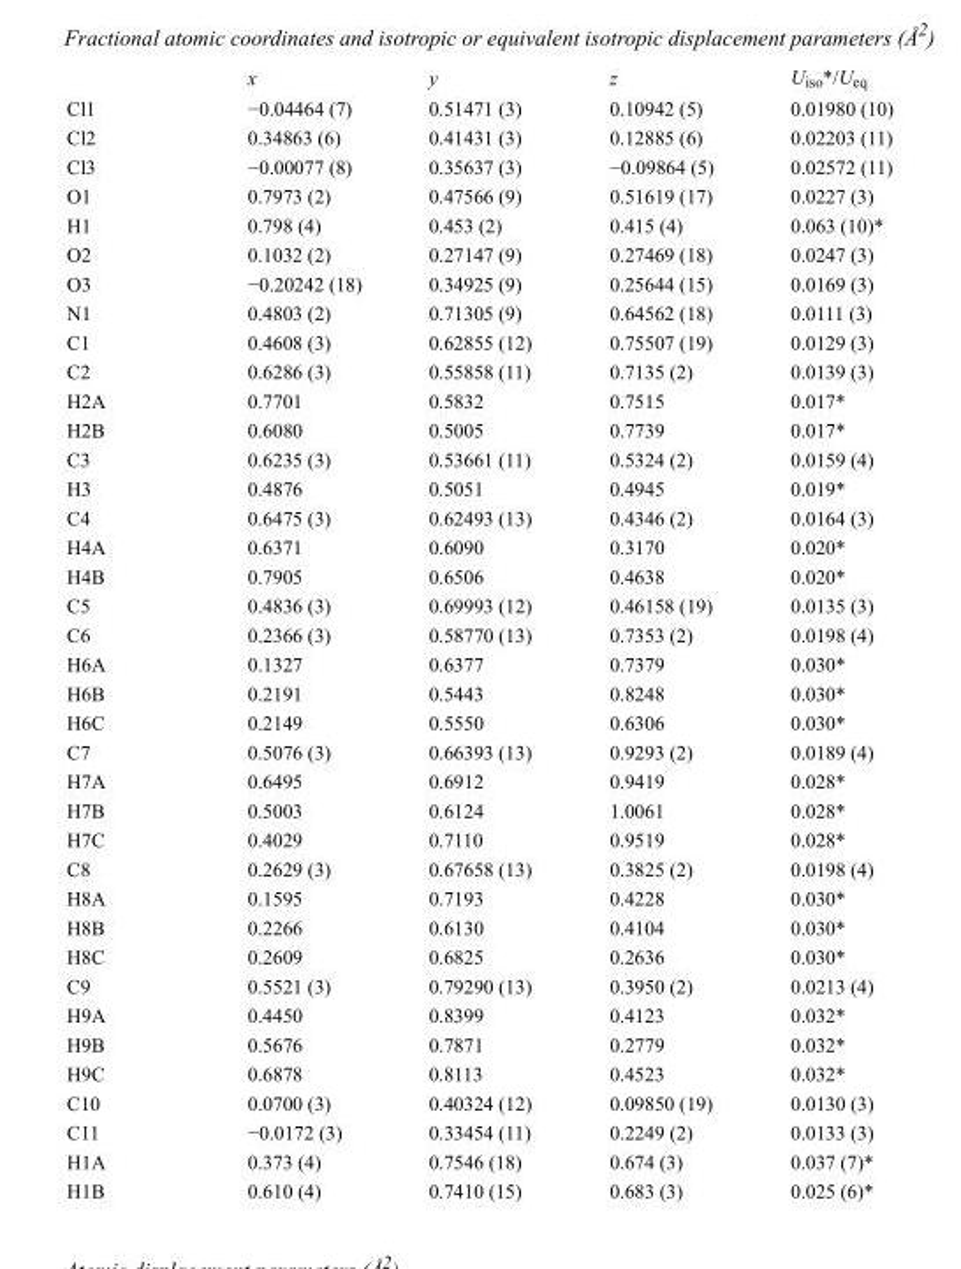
<table><thead><tr><td></td><td>x</td><td>y</td><td>z</td><td>U<sub>iso</sub>*/U<sub>eq</sub></td></tr></thead><tbody><tr><td>Cl1</td><td>−0.04464 (7)</td><td>0.51471 (3)</td><td>0.10942 (5)</td><td>0.01980 (10)</td></tr><tr><td>Cl2</td><td>0.34863 (6)</td><td>0.41431 (3)</td><td>0.12885 (6)</td><td>0.02203 (11)</td></tr><tr><td>Cl3</td><td>−0.00077 (8)</td><td>0.35637 (3)</td><td>−0.09864 (5)</td><td>0.02572 (11)</td></tr><tr><td>O1</td><td>0.7973 (2)</td><td>0.47566 (9)</td><td>0.51619 (17)</td><td>0.0227 (3)</td></tr><tr><td>H1</td><td>0.798 (4)</td><td>0.453 (2)</td><td>0.415 (4)</td><td>0.063 (10)*</td></tr><tr><td>O2</td><td>0.1032 (2)</td><td>0.27147 (9)</td><td>0.27469 (18)</td><td>0.0247 (3)</td></tr><tr><td>O3</td><td>−0.20242 (18)</td><td>0.34925 (9)</td><td>0.25644 (15)</td><td>0.0169 (3)</td></tr><tr><td>N1</td><td>0.4803 (2)</td><td>0.71305 (9)</td><td>0.64562 (18)</td><td>0.0111 (3)</td></tr><tr><td>C1</td><td>0.4608 (3)</td><td>0.62855 (12)</td><td>0.75507 (19)</td><td>0.0129 (3)</td></tr><tr><td>C2</td><td>0.6286 (3)</td><td>0.55858 (11)</td><td>0.7135 (2)</td><td>0.0139 (3)</td></tr><tr><td>H2A</td><td>0.7701</td><td>0.5832</td><td>0.7515</td><td>0.017*</td></tr><tr><td>H2B</td><td>0.6080</td><td>0.5005</td><td>0.7739</td><td>0.017*</td></tr><tr><td>C3</td><td>0.6235 (3)</td><td>0.53661 (11)</td><td>0.5324 (2)</td><td>0.0159 (4)</td></tr><tr><td>H3</td><td>0.4876</td><td>0.5051</td><td>0.4945</td><td>0.019*</td></tr><tr><td>C4</td><td>0.6475 (3)</td><td>0.62493 (13)</td><td>0.4346 (2)</td><td>0.0164 (3)</td></tr><tr><td>H4A</td><td>0.6371</td><td>0.6090</td><td>0.3170</td><td>0.020*</td></tr><tr><td>H4B</td><td>0.7905</td><td>0.6506</td><td>0.4638</td><td>0.020*</td></tr><tr><td>C5</td><td>0.4836 (3)</td><td>0.69993 (12)</td><td>0.46158 (19)</td><td>0.0135 (3)</td></tr><tr><td>C6</td><td>0.2366 (3)</td><td>0.58770 (13)</td><td>0.7353 (2)</td><td>0.0198 (4)</td></tr><tr><td>H6A</td><td>0.1327</td><td>0.6377</td><td>0.7379</td><td>0.030*</td></tr><tr><td>H6B</td><td>0.2191</td><td>0.5443</td><td>0.8248</td><td>0.030*</td></tr><tr><td>H6C</td><td>0.2149</td><td>0.5550</td><td>0.6306</td><td>0.030*</td></tr><tr><td>C7</td><td>0.5076 (3)</td><td>0.66393 (13)</td><td>0.9293 (2)</td><td>0.0189 (4)</td></tr><tr><td>H7A</td><td>0.6495</td><td>0.6912</td><td>0.9419</td><td>0.028*</td></tr><tr><td>H7B</td><td>0.5003</td><td>0.6124</td><td>1.0061</td><td>0.028*</td></tr><tr><td>H7C</td><td>0.4029</td><td>0.7110</td><td>0.9519</td><td>0.028*</td></tr><tr><td>C8</td><td>0.2629 (3)</td><td>0.67658 (13)</td><td>0.3825 (2)</td><td>0.0198 (4)</td></tr><tr><td>H8A</td><td>0.1595</td><td>0.7193</td><td>0.4228</td><td>0.030*</td></tr><tr><td>H8B</td><td>0.2266</td><td>0.6130</td><td>0.4104</td><td>0.030*</td></tr><tr><td>H8C</td><td>0.2609</td><td>0.6825</td><td>0.2636</td><td>0.030*</td></tr><tr><td>C9</td><td>0.5521 (3)</td><td>0.79290 (13)</td><td>0.3950 (2)</td><td>0.0213 (4)</td></tr><tr><td>H9A</td><td>0.4450</td><td>0.8399</td><td>0.4123</td><td>0.032*</td></tr><tr><td>H9B</td><td>0.5676</td><td>0.7871</td><td>0.2779</td><td>0.032*</td></tr><tr><td>H9C</td><td>0.6878</td><td>0.8113</td><td>0.4523</td><td>0.032*</td></tr><tr><td>C10</td><td>0.0700 (3)</td><td>0.40324 (12)</td><td>0.09850 (19)</td><td>0.0130 (3)</td></tr><tr><td>C11</td><td>−0.0172 (3)</td><td>0.33454 (11)</td><td>0.2249 (2)</td><td>0.0133 (3)</td></tr><tr><td>H1A</td><td>0.373 (4)</td><td>0.7546 (18)</td><td>0.674 (3)</td><td>0.037 (7)*</td></tr><tr><td>H1B</td><td>0.610 (4)</td><td>0.7410 (15)</td><td>0.683 (3)</td><td>0.025 (6)*</td></tr></tbody></table>